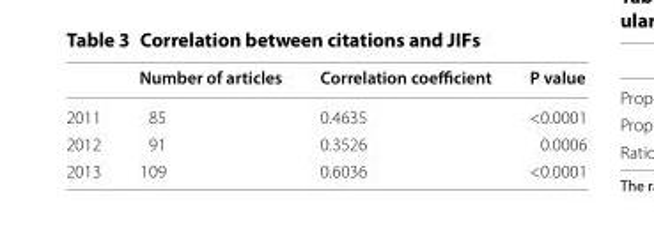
<table><thead><tr><td></td><td>Number of articles</td><td>Correlation coefficient</td><td>P value</td></tr></thead><tbody><tr><td>2011</td><td>85</td><td>0.4635</td><td>&lt;0.0001</td></tr><tr><td>2012</td><td>91</td><td>0.3526</td><td>0.0006</td></tr><tr><td>2013</td><td>109</td><td>0.6036</td><td>&lt;0.0001</td></tr></tbody></table>